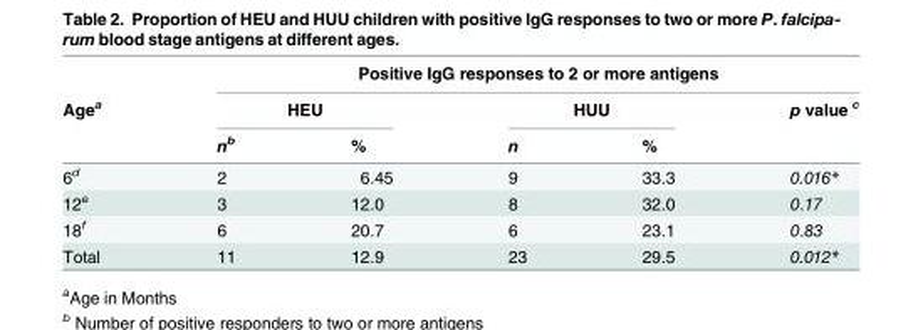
<table><thead><tr><td rowspan="3">Age<sup>a</sup></td><td colspan="5">Positive IgG responses to 2 or more antigens</td></tr><tr><td colspan="2">HEU</td><td colspan="2">HUU</td><td rowspan="2">p value <sup>c</sup></td></tr><tr><td>n<sup>b</sup></td><td>%</td><td>n</td><td>%</td></tr></thead><tbody><tr><td>6<sup>d</sup></td><td>2</td><td>6.45</td><td>9</td><td>33.3</td><td>0.016*</td></tr><tr><td>12<sup>e</sup></td><td>3</td><td>12.0</td><td>8</td><td>32.0</td><td>0.17</td></tr><tr><td>18<sup>f</sup></td><td>6</td><td>20.7</td><td>6</td><td>23.1</td><td>0.83</td></tr><tr><td>Total</td><td>11</td><td>12.9</td><td>23</td><td>29.5</td><td>0.012*</td></tr></tbody></table>